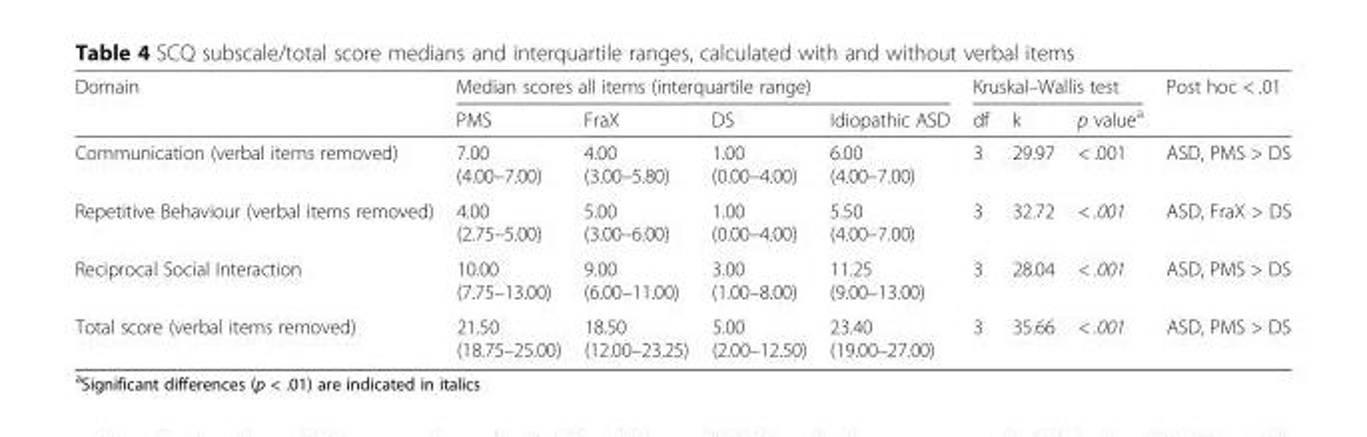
<table><thead><tr><td rowspan="2">Domain</td><td colspan="4">Median scores all items (interquartile range)</td><td colspan="3">Kruskal–Wallis test</td><td rowspan="2">Post hoc &lt; .01</td></tr><tr><td>PMS</td><td>FraX</td><td>DS</td><td>Idiopathic ASD</td><td>df</td><td>k</td><td>p value<sup>a</sup></td></tr></thead><tbody><tr><td>Communication (verbal items removed)</td><td>7.00 (4.00–7.00)</td><td>4.00 (3.00–5.80)</td><td>1.00 (0.00–4.00)</td><td>6.00 (4.00–7.00)</td><td>3</td><td>29.97</td><td>&lt; .001</td><td>ASD, PMS &gt; DS</td></tr><tr><td>Repetitive Behaviour (verbal items removed)</td><td>4.00 (2.75–5.00)</td><td>5.00 (3.00–6.00)</td><td>1.00 (0.00–4.00)</td><td>5.50 (4.00–7.00)</td><td>3</td><td>32.72</td><td>&lt; .001</td><td>ASD, FraX &gt; DS</td></tr><tr><td>Reciprocal Social Interaction</td><td>10.00 (7.75–13.00)</td><td>9.00 (6.00–11.00)</td><td>3.00 (1.00–8.00)</td><td>11.25 (9.00–13.00)</td><td>3</td><td>28.04</td><td>&lt; .001</td><td>ASD, PMS &gt; DS</td></tr><tr><td>Total score (verbal items removed)</td><td>21.50 (18.75–25.00)</td><td>18.50 (12.00–23.25)</td><td>5.00 (2.00–12.50)</td><td>23.40 (19.00–27.00)</td><td>3</td><td>35.66</td><td>&lt; .001</td><td>ASD, PMS &gt; DS</td></tr></tbody></table>